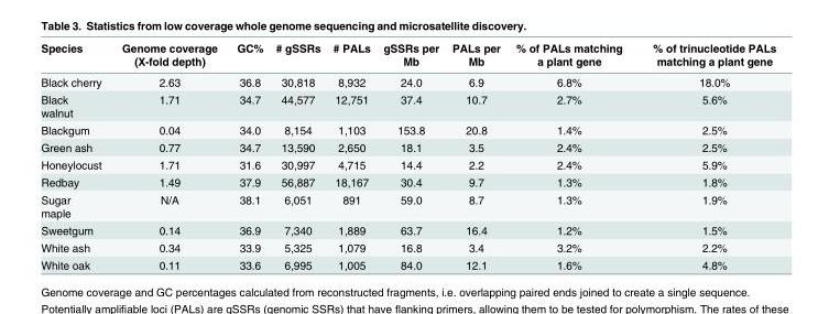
<table><thead><tr><td>Species</td><td>Genome coverage (X-fold depth)</td><td>GC%</td><td># gSSRs</td><td># PALs</td><td>gSSRs per Mb</td><td>PALs per Mb</td><td>% of PALs matching a plant gene</td><td>% of trinucleotide PALs matching a plant gene</td></tr></thead><tbody><tr><td>Black cherry</td><td>2.63</td><td>36.8</td><td>30,818</td><td>8,932</td><td>24.0</td><td>6.9</td><td>6.8%</td><td>18.0%</td></tr><tr><td>Black walnut</td><td>1.71</td><td>34.7</td><td>44,577</td><td>12,751</td><td>37.4</td><td>10.7</td><td>2.7%</td><td>5.6%</td></tr><tr><td>Blackgum</td><td>0.04</td><td>34.0</td><td>8,154</td><td>1,103</td><td>153.8</td><td>20.8</td><td>1.4%</td><td>2.5%</td></tr><tr><td>Green ash</td><td>0.77</td><td>34.7</td><td>13,590</td><td>2,650</td><td>18.1</td><td>3.5</td><td>2.4%</td><td>2.5%</td></tr><tr><td>Honeylocust</td><td>1.71</td><td>31.6</td><td>30,997</td><td>4,715</td><td>14.4</td><td>2.2</td><td>2.4%</td><td>5.9%</td></tr><tr><td>Redbay</td><td>1.49</td><td>37.9</td><td>56,887</td><td>18,167</td><td>30.4</td><td>9.7</td><td>1.3%</td><td>1.8%</td></tr><tr><td>Sugar maple</td><td>N/A</td><td>38.1</td><td>6,051</td><td>891</td><td>59.0</td><td>8.7</td><td>1.3%</td><td>1.9%</td></tr><tr><td>Sweetgum</td><td>0.14</td><td>36.9</td><td>7,340</td><td>1,889</td><td>63.7</td><td>16.4</td><td>1.2%</td><td>1.5%</td></tr><tr><td>White ash</td><td>0.34</td><td>33.9</td><td>5,325</td><td>1,079</td><td>16.8</td><td>3.4</td><td>3.2%</td><td>2.2%</td></tr><tr><td>White oak</td><td>0.11</td><td>33.6</td><td>6,995</td><td>1,005</td><td>84.0</td><td>12.1</td><td>1.6%</td><td>4.8%</td></tr></tbody></table>